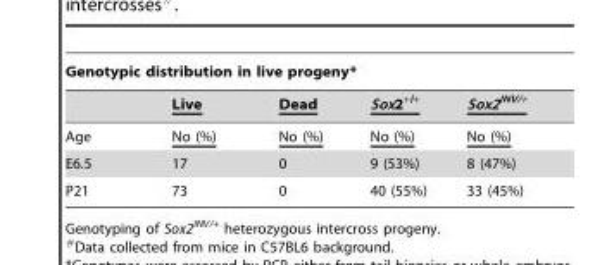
<table><thead><tr><td colspan="5">Genotypic distribution in live progeny*</td></tr><tr><td></td><td>Live</td><td>Dead</td><td>Sox2<sup>+/+</sup></td><td>Sox2<sup>INV/+</sup></td></tr></thead><tbody><tr><td>Age</td><td>No (%)</td><td>No (%)</td><td>No (%)</td><td>No (%)</td></tr><tr><td>E6.5</td><td>17</td><td>0</td><td>9 (53%)</td><td>8 (47%)</td></tr><tr><td>P21</td><td>73</td><td>0</td><td>40 (55%)</td><td>33 (45%)</td></tr></tbody></table>